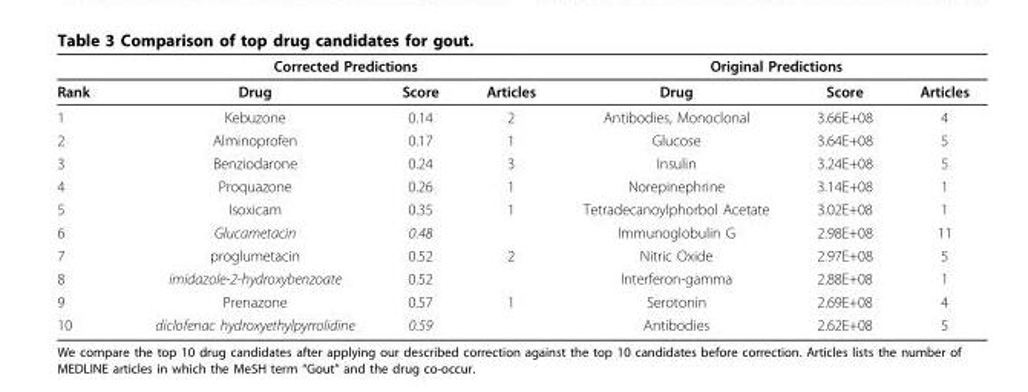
<table><thead><tr><td rowspan="2">Rank</td><td colspan="3">Corrected Predictions</td><td colspan="3">Original Predictions</td></tr><tr><td>Drug</td><td>Score</td><td>Articles</td><td>Drug</td><td>Score</td><td>Articles</td></tr></thead><tbody><tr><td>1</td><td>Kebuzone</td><td>0.14</td><td>2</td><td>Antibodies, Monoclonal</td><td>3.66E+08</td><td>4</td></tr><tr><td>2</td><td>Alminoprofen</td><td>0.17</td><td>1</td><td>Glucose</td><td>3.64E+08</td><td>5</td></tr><tr><td>3</td><td>Benziodarone</td><td>0.24</td><td>3</td><td>Insulin</td><td>3.24E+08</td><td>5</td></tr><tr><td>4</td><td>Proquazone</td><td>0.26</td><td>1</td><td>Norepinephrine</td><td>3.14E+08</td><td>1</td></tr><tr><td>5</td><td>Isoxicam</td><td>0.35</td><td>1</td><td>Tetradecanoylphorbol Acetate</td><td>3.02E+08</td><td>1</td></tr><tr><td>6</td><td>Glucametacin</td><td>0.48</td><td></td><td>Immunoglobulin G</td><td>2.98E+08</td><td>11</td></tr><tr><td>7</td><td>proglumetacin</td><td>0.52</td><td>2</td><td>Nitric Oxide</td><td>2.97E+08</td><td>5</td></tr><tr><td>8</td><td>imidazole-2-hydroxybenzoate</td><td>0.52</td><td></td><td>Interferon-gamma</td><td>2.88E+08</td><td>1</td></tr><tr><td>9</td><td>Prenazone</td><td>0.57</td><td>1</td><td>Serotonin</td><td>2.69E+08</td><td>4</td></tr><tr><td>10</td><td>diclofenac hydroxyethylpyrrolidine</td><td>0.59</td><td></td><td>Antibodies</td><td>2.62E+08</td><td>5</td></tr></tbody></table>